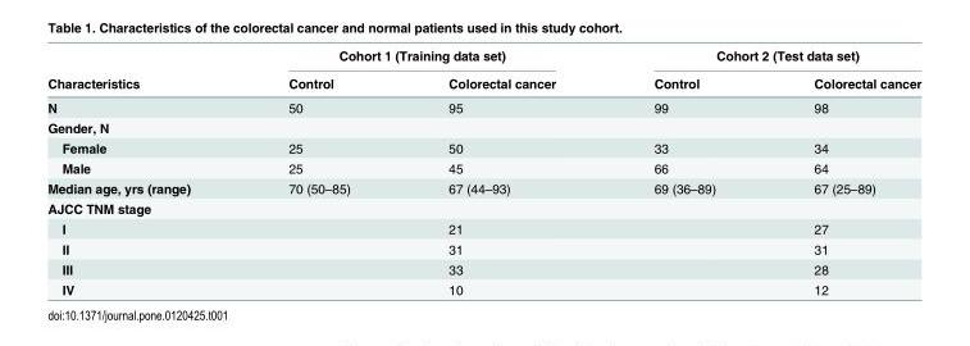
<table><thead><tr><td rowspan="2">Characteristics</td><td colspan="2">Cohort 1 (Training data set)</td><td colspan="2">Cohort 2 (Test data set)</td></tr><tr><td>Control</td><td>Colorectal cancer</td><td>Control</td><td>Colorectal cancer</td></tr></thead><tbody><tr><td>N</td><td>50</td><td>95</td><td>99</td><td>98</td></tr><tr><td colspan="5">Gender, N</td></tr><tr><td>Female</td><td>25</td><td>50</td><td>33</td><td>34</td></tr><tr><td>Male</td><td>25</td><td>45</td><td>66</td><td>64</td></tr><tr><td>Median age, yrs (range)</td><td>70 (50–85)</td><td>67 (44–93)</td><td>69 (36–89)</td><td>67 (25–89)</td></tr><tr><td colspan="5">AJCC TNM stage</td></tr><tr><td>I</td><td></td><td>21</td><td></td><td>27</td></tr><tr><td>II</td><td></td><td>31</td><td></td><td>31</td></tr><tr><td>III</td><td></td><td>33</td><td></td><td>28</td></tr><tr><td>IV</td><td></td><td>10</td><td></td><td>12</td></tr></tbody></table>